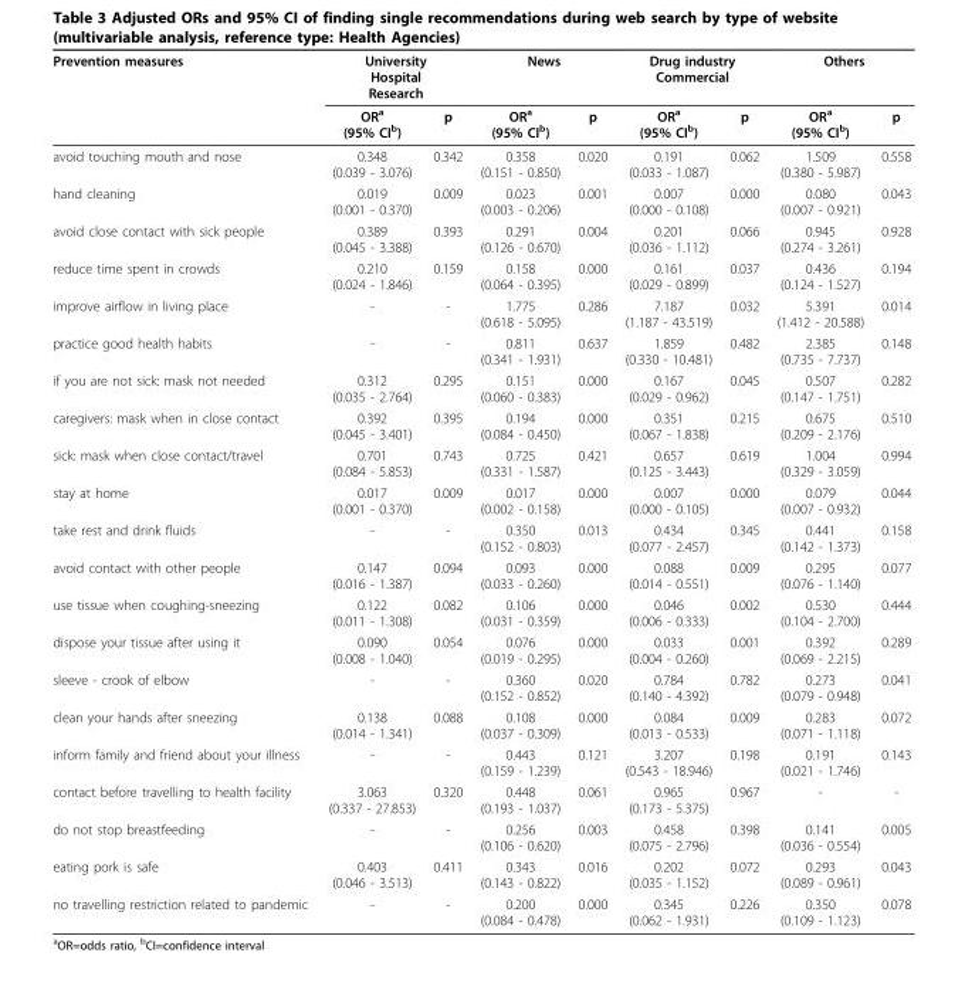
<table><thead><tr><td rowspan="2">Prevention measures</td><td colspan="2">University Hospital Research</td><td colspan="2">News</td><td colspan="2">Drug industry Commercial</td><td colspan="2">Others</td></tr><tr><td>OR<sup>a</sup> (95% CI<sup>b</sup>)</td><td>p</td><td>OR<sup>a</sup> (95% CI<sup>b</sup>)</td><td>p</td><td>OR<sup>a</sup> (95% CI<sup>b</sup>)</td><td>p</td><td>OR<sup>a</sup> (95% CI<sup>b</sup>)</td><td>p</td></tr></thead><tbody><tr><td>avoid touching mouth and nose</td><td>0.348 (0.039 - 3.076)</td><td>0.342</td><td>0.358 (0.151 - 0.850)</td><td>0.020</td><td>0.191 (0.033 - 1.087)</td><td>0.062</td><td>1.509 (0.380 - 5.987)</td><td>0.558</td></tr><tr><td>hand cleaning</td><td>0.019 (0.001 - 0.370)</td><td>0.009</td><td>0.023 (0.003 - 0.206)</td><td>0.001</td><td>0.007 (0.000 - 0.108)</td><td>0.000</td><td>0.080 (0.007 - 0.921)</td><td>0.043</td></tr><tr><td>avoid close contact with sick people</td><td>0.389 (0.045 - 3.388)</td><td>0.393</td><td>0.291 (0.126 - 0.670)</td><td>0.004</td><td>0.201 (0.036 - 1.112)</td><td>0.066</td><td>0.945 (0.274 - 3.261)</td><td>0.928</td></tr><tr><td>reduce time spent in crowds</td><td>0.210 (0.024 - 1.846)</td><td>0.159</td><td>0.158 (0.064 - 0.395)</td><td>0.000</td><td>0.161 (0.029 - 0.899)</td><td>0.037</td><td>0.436 (0.124 - 1.527)</td><td>0.194</td></tr><tr><td>improve airflow in living place</td><td>-</td><td>-</td><td>1.775 (0.618 - 5.095)</td><td>0.286</td><td>7.187 (1.187 - 43.519)</td><td>0.032</td><td>5.391 (1.412 - 20.588)</td><td>0.014</td></tr><tr><td>practice good health habits</td><td>-</td><td>-</td><td>0.811 (0.341 - 1.931)</td><td>0.637</td><td>1.859 (0.330 - 10.481)</td><td>0.482</td><td>2.385 (0.735 - 7.737)</td><td>0.148</td></tr><tr><td>if you are not sick: mask not needed</td><td>0.312 (0.035 - 2.764)</td><td>0.295</td><td>0.151 (0.060 - 0.383)</td><td>0.000</td><td>0.167 (0.029 - 0.962)</td><td>0.045</td><td>0.507 (0.147 - 1.751)</td><td>0.282</td></tr><tr><td>caregivers: mask when in close contact</td><td>0.392 (0.045 - 3.401)</td><td>0.395</td><td>0.194 (0.084 - 0.450)</td><td>0.000</td><td>0.351 (0.067 - 1.838)</td><td>0.215</td><td>0.675 (0.209 - 2.176)</td><td>0.510</td></tr><tr><td>sick: mask when close contact/travel</td><td>0.701 (0.084 - 5.853)</td><td>0.743</td><td>0.725 (0.331 - 1.587)</td><td>0.421</td><td>0.657 (0.125 - 3.443)</td><td>0.619</td><td>1.004 (0.329 - 3.059)</td><td>0.994</td></tr><tr><td>stay at home</td><td>0.017 (0.001 - 0.370)</td><td>0.009</td><td>0.017 (0.002 - 0.158)</td><td>0.000</td><td>0.007 (0.000 - 0.105)</td><td>0.000</td><td>0.079 (0.007 - 0.932)</td><td>0.044</td></tr><tr><td>take rest and drink fluids</td><td>-</td><td>-</td><td>0.350 (0.152 - 0.803)</td><td>0.013</td><td>0.434 (0.077 - 2.457)</td><td>0.345</td><td>0.441 (0.142 - 1.373)</td><td>0.158</td></tr><tr><td>avoid contact with other people</td><td>0.147 (0.016 - 1.387)</td><td>0.094</td><td>0.093 (0.033 - 0.260)</td><td>0.000</td><td>0.088 (0.014 - 0.551)</td><td>0.009</td><td>0.295 (0.076 - 1.140)</td><td>0.077</td></tr><tr><td>use tissue when coughing-sneezing</td><td>0.122 (0.011 - 1.308)</td><td>0.082</td><td>0.106 (0.031 - 0.359)</td><td>0.000</td><td>0.046 (0.006 - 0.333)</td><td>0.002</td><td>0.530 (0.104 - 2.700)</td><td>0.444</td></tr><tr><td>dispose your tissue after using it</td><td>0.090 (0.008 - 1.040)</td><td>0.054</td><td>0.076 (0.019 - 0.295)</td><td>0.000</td><td>0.033 (0.004 - 0.260)</td><td>0.001</td><td>0.392 (0.069 - 2.215)</td><td>0.289</td></tr><tr><td>sleeve - crook of elbow</td><td>-</td><td>-</td><td>0.360 (0.152 - 0.852)</td><td>0.020</td><td>0.784 (0.140 - 4.392)</td><td>0.782</td><td>0.273 (0.079 - 0.948)</td><td>0.041</td></tr><tr><td>clean your hands after sneezing</td><td>0.138 (0.014 - 1.341)</td><td>0.088</td><td>0.108 (0.037 - 0.309)</td><td>0.000</td><td>0.084 (0.013 - 0.533)</td><td>0.009</td><td>0.283 (0.071 - 1.118)</td><td>0.072</td></tr><tr><td>inform family and friend about your illness</td><td>-</td><td>-</td><td>0.443 (0.159 - 1.239)</td><td>0.121</td><td>3.207 (0.543 - 18.946)</td><td>0.198</td><td>0.191 (0.021 - 1.746)</td><td>0.143</td></tr><tr><td>contact before travelling to health facility</td><td>3.063 (0.337 - 27.853)</td><td>0.320</td><td>0.448 (0.193 - 1.037)</td><td>0.061</td><td>0.965 (0.173 - 5.375)</td><td>0.967</td><td>-</td><td>-</td></tr><tr><td>do not stop breastfeeding</td><td>-</td><td>-</td><td>0.256 (0.106 - 0.620)</td><td>0.003</td><td>0.458 (0.075 - 2.796)</td><td>0.398</td><td>0.141 (0.036 - 0.554)</td><td>0.005</td></tr><tr><td>eating pork is safe</td><td>0.403 (0.046 - 3.513)</td><td>0.411</td><td>0.343 (0.143 - 0.822)</td><td>0.016</td><td>0.202 (0.035 - 1.152)</td><td>0.072</td><td>0.293 (0.089 - 0.961)</td><td>0.043</td></tr><tr><td>no travelling restriction related to pandemic</td><td>-</td><td>-</td><td>0.200 (0.084 - 0.478)</td><td>0.000</td><td>0.345 (0.062 - 1.931)</td><td>0.226</td><td>0.350 (0.109 - 1.123)</td><td>0.078</td></tr></tbody></table>